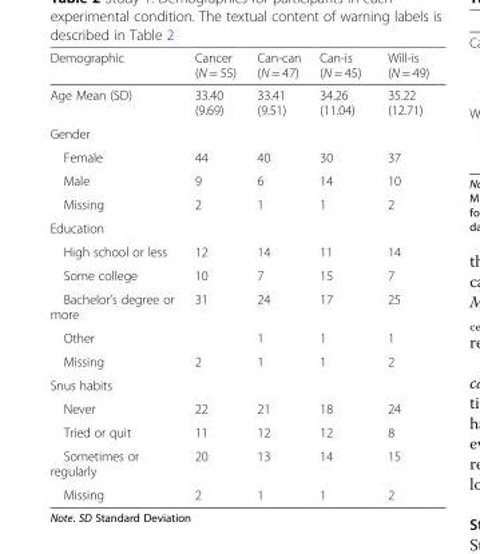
<table><thead><tr><td>Demographic</td><td>Cancer (N = 55)</td><td>Can-can (N = 47)</td><td>Can-is (N = 45)</td><td>Will-is (N = 49)</td></tr></thead><tbody><tr><td>Age Mean (SD)</td><td>33.40 (9.69)</td><td>33.41 (9.51)</td><td>34.26 (11.04)</td><td>35.22 (12.71)</td></tr><tr><td colspan="5">Gender</td></tr><tr><td>Female</td><td>44</td><td>40</td><td>30</td><td>37</td></tr><tr><td>Male</td><td>9</td><td>6</td><td>14</td><td>10</td></tr><tr><td>Missing</td><td>2</td><td>1</td><td>1</td><td>2</td></tr><tr><td colspan="5">Education</td></tr><tr><td>High school or less</td><td>12</td><td>14</td><td>11</td><td>14</td></tr><tr><td>Some college</td><td>10</td><td>7</td><td>15</td><td>7</td></tr><tr><td>Bachelor’s degree or more</td><td>31</td><td>24</td><td>17</td><td>25</td></tr><tr><td>Other</td><td></td><td>1</td><td>1</td><td>1</td></tr><tr><td>Missing</td><td>2</td><td>1</td><td>1</td><td>2</td></tr><tr><td colspan="5">Snus habits</td></tr><tr><td>Never</td><td>22</td><td>21</td><td>18</td><td>24</td></tr><tr><td>Tried or quit</td><td>11</td><td>12</td><td>12</td><td>8</td></tr><tr><td>Sometimes or regularly</td><td>20</td><td>13</td><td>14</td><td>15</td></tr><tr><td>Missing</td><td>2</td><td>1</td><td>1</td><td>2</td></tr></tbody></table>